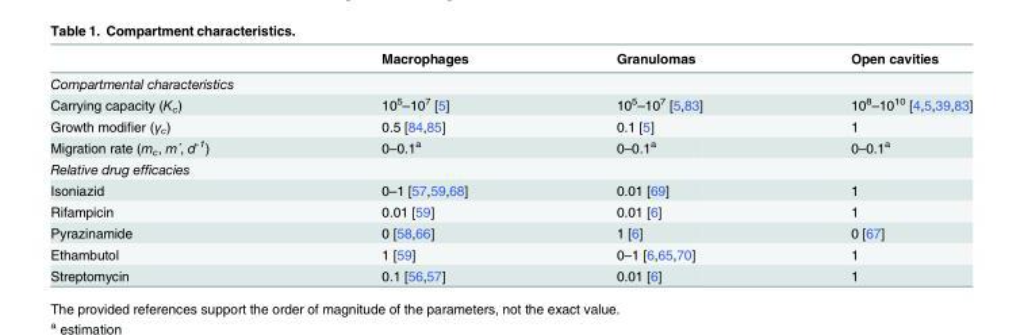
<table><thead><tr><td></td><td>Macrophages</td><td>Granulomas</td><td>Open cavities</td></tr></thead><tbody><tr><td colspan="4">Compartmental characteristics</td></tr><tr><td>Carrying capacity (K<sub>c</sub>)</td><td>10<sup>5</sup>–10<sup>7</sup> [5]</td><td>10<sup>5</sup>–10<sup>7</sup> [5,83]</td><td>10<sup>8</sup>–10<sup>10</sup> [4,5,39,83]</td></tr><tr><td>Growth modifier (γ<sub>c</sub>)</td><td>0.5 [84,85]</td><td>0.1 [5]</td><td>1</td></tr><tr><td>Migration rate (m<sub>c</sub>, m´, d<sup>-1</sup>)</td><td>0–0.1<sup>a</sup></td><td>0–0.1<sup>a</sup></td><td>0–0.1<sup>a</sup></td></tr><tr><td colspan="4">Relative drug efficacies</td></tr><tr><td>Isoniazid</td><td>0–1 [57,59,68]</td><td>0.01 [69]</td><td>1</td></tr><tr><td>Rifampicin</td><td>0.01 [59]</td><td>0.01 [6]</td><td>1</td></tr><tr><td>Pyrazinamide</td><td>0 [58,66]</td><td>1 [6]</td><td>0 [67]</td></tr><tr><td>Ethambutol</td><td>1 [59]</td><td>0–1 [6,65,70]</td><td>1</td></tr><tr><td>Streptomycin</td><td>0.1 [56,57]</td><td>0.01 [6]</td><td>1</td></tr></tbody></table>